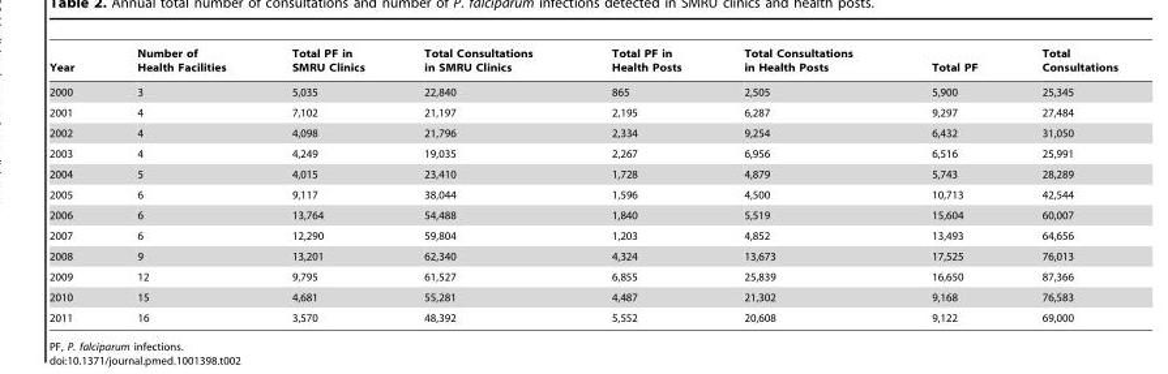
<table><thead><tr><td>Year</td><td>Number of Health Facilities</td><td>Total PF in SMRU Clinics</td><td>Total Consultations in SMRU Clinics</td><td>Total PF in Health Posts</td><td>Total Consultations in Health Posts</td><td>Total PF</td><td>Total Consultations</td></tr></thead><tbody><tr><td>2000</td><td>3</td><td>5,035</td><td>22,840</td><td>865</td><td>2,505</td><td>5,900</td><td>25,345</td></tr><tr><td>2001</td><td>4</td><td>7,102</td><td>21,197</td><td>2,195</td><td>6,287</td><td>9,297</td><td>27,484</td></tr><tr><td>2002</td><td>4</td><td>4,098</td><td>21,796</td><td>2,334</td><td>9,254</td><td>6,432</td><td>31,050</td></tr><tr><td>2003</td><td>4</td><td>4,249</td><td>19,035</td><td>2,267</td><td>6,956</td><td>6,516</td><td>25,991</td></tr><tr><td>2004</td><td>5</td><td>4,015</td><td>23,410</td><td>1,728</td><td>4,879</td><td>5,743</td><td>28,289</td></tr><tr><td>2005</td><td>6</td><td>9,117</td><td>38,044</td><td>1,596</td><td>4,500</td><td>10,713</td><td>42,544</td></tr><tr><td>2006</td><td>6</td><td>13,764</td><td>54,488</td><td>1,840</td><td>5,519</td><td>15,604</td><td>60,007</td></tr><tr><td>2007</td><td>6</td><td>12,290</td><td>59,804</td><td>1,203</td><td>4,852</td><td>13,493</td><td>64,656</td></tr><tr><td>2008</td><td>9</td><td>13,201</td><td>62,340</td><td>4,324</td><td>13,673</td><td>17,525</td><td>76,013</td></tr><tr><td>2009</td><td>12</td><td>9,795</td><td>61,527</td><td>6,855</td><td>25,839</td><td>16,650</td><td>87,366</td></tr><tr><td>2010</td><td>15</td><td>4,681</td><td>55,281</td><td>4,487</td><td>21,302</td><td>9,168</td><td>76,583</td></tr><tr><td>2011</td><td>16</td><td>3,570</td><td>48,392</td><td>5,552</td><td>20,608</td><td>9,122</td><td>69,000</td></tr></tbody></table>